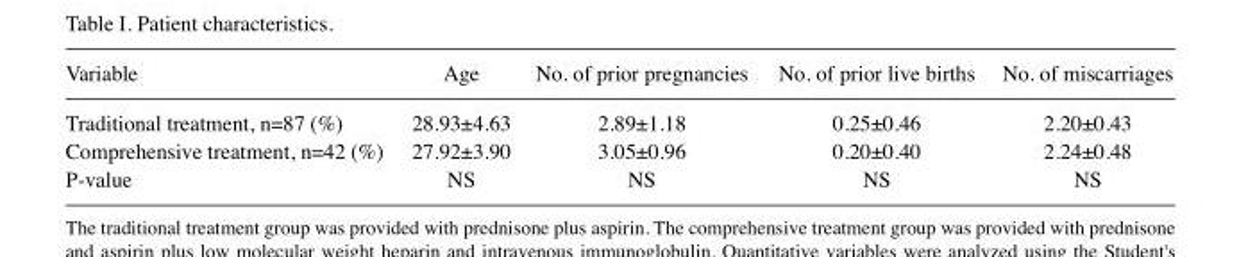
<table><thead><tr><td>Variable</td><td>Age</td><td>No. of prior pregnancies</td><td>No. of prior live births</td><td>No. of miscarriages</td></tr></thead><tbody><tr><td>Traditional treatment, n=87 (%)</td><td>28.93±4.63</td><td>2.89±1.18</td><td>0.25±0.46</td><td>2.20±0.43</td></tr><tr><td>Comprehensive treatment, n=42 (%)</td><td>27.92±3.90</td><td>3.05±0.96</td><td>0.20±0.40</td><td>2.24±0.48</td></tr><tr><td>P-value</td><td>NS</td><td>NS</td><td>NS</td><td>NS</td></tr></tbody></table>